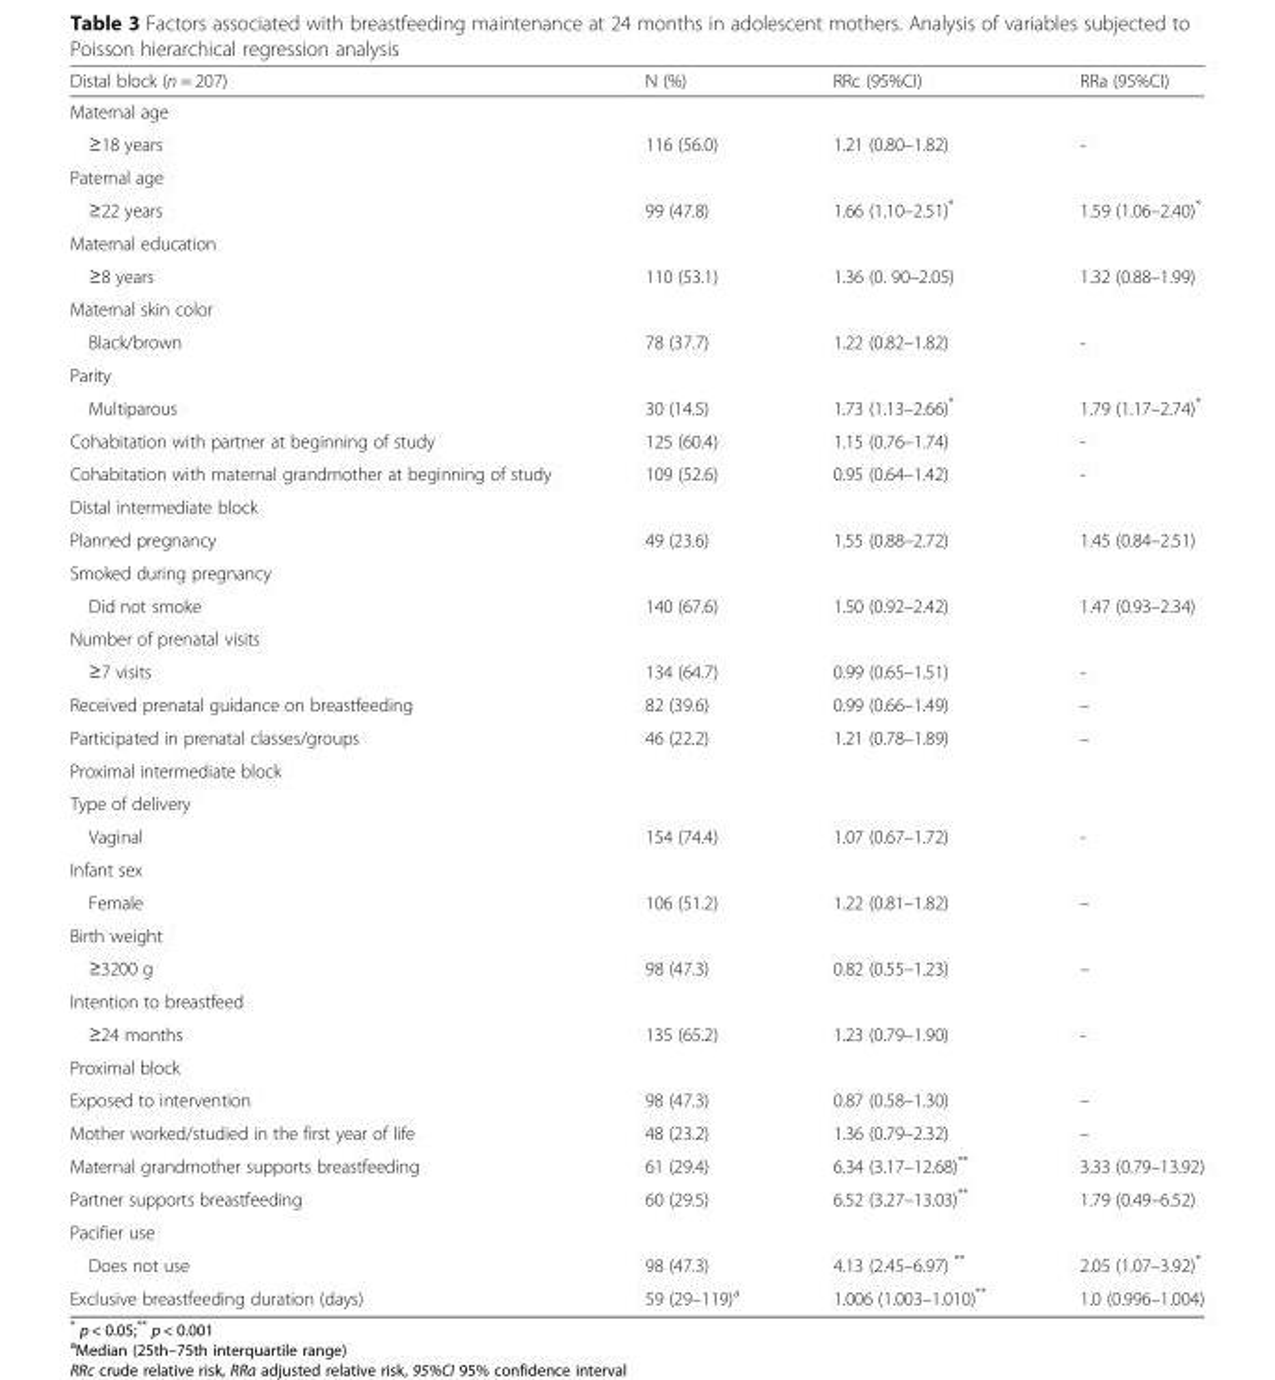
<table><thead><tr><td>Distal block (n = 207)</td><td>N (%)</td><td>RRc (95%CI)</td><td>RRa (95%CI)</td></tr></thead><tbody><tr><td colspan="4">Maternal age</td></tr><tr><td>≥18 years</td><td>116 (56.0)</td><td>1.21 (0.80–1.82)</td><td>-</td></tr><tr><td colspan="4">Paternal age</td></tr><tr><td>≥22 years</td><td>99 (47.8)</td><td>1.66 (1.10–2.51)*</td><td>1.59 (1.06–2.40)*</td></tr><tr><td colspan="4">Maternal education</td></tr><tr><td>≥8 years</td><td>110 (53.1)</td><td>1.36 (0. 90–2.05)</td><td>1.32 (0.88–1.99)</td></tr><tr><td colspan="4">Maternal skin color</td></tr><tr><td>Black/brown</td><td>78 (37.7)</td><td>1.22 (0.82–1.82)</td><td>-</td></tr><tr><td colspan="4">Parity</td></tr><tr><td>Multiparous</td><td>30 (14.5)</td><td>1.73 (1.13–2.66)*</td><td>1.79 (1.17–2.74)*</td></tr><tr><td>Cohabitation with partner at beginning of study</td><td>125 (60.4)</td><td>1.15 (0.76–1.74)</td><td>-</td></tr><tr><td>Cohabitation with maternal grandmother at beginning of study</td><td>109 (52.6)</td><td>0.95 (0.64–1.42)</td><td>-</td></tr><tr><td colspan="4">Distal intermediate block</td></tr><tr><td>Planned pregnancy</td><td>49 (23.6)</td><td>1.55 (0.88–2.72)</td><td>1.45 (0.84–2.51)</td></tr><tr><td colspan="4">Smoked during pregnancy</td></tr><tr><td>Did not smoke</td><td>140 (67.6)</td><td>1.50 (0.92–2.42)</td><td>1.47 (0.93–2.34)</td></tr><tr><td colspan="4">Number of prenatal visits</td></tr><tr><td>≥7 visits</td><td>134 (64.7)</td><td>0.99 (0.65–1.51)</td><td>-</td></tr><tr><td>Received prenatal guidance on breastfeeding</td><td>82 (39.6)</td><td>0.99 (0.66–1.49)</td><td>–</td></tr><tr><td>Participated in prenatal classes/groups</td><td>46 (22.2)</td><td>1.21 (0.78–1.89)</td><td>–</td></tr><tr><td colspan="4">Proximal intermediate block</td></tr><tr><td colspan="4">Type of delivery</td></tr><tr><td>Vaginal</td><td>154 (74.4)</td><td>1.07 (0.67–1.72)</td><td>-</td></tr><tr><td colspan="4">Infant sex</td></tr><tr><td>Female</td><td>106 (51.2)</td><td>1.22 (0.81–1.82)</td><td>–</td></tr><tr><td colspan="4">Birth weight</td></tr><tr><td>≥3200 g</td><td>98 (47.3)</td><td>0.82 (0.55–1.23)</td><td>–</td></tr><tr><td colspan="4">Intention to breastfeed</td></tr><tr><td>≥24 months</td><td>135 (65.2)</td><td>1.23 (0.79–1.90)</td><td>-</td></tr><tr><td colspan="4">Proximal block</td></tr><tr><td>Exposed to intervention</td><td>98 (47.3)</td><td>0.87 (0.58–1.30)</td><td>–</td></tr><tr><td>Mother worked/studied in the first year of life</td><td>48 (23.2)</td><td>1.36 (0.79–2.32)</td><td>–</td></tr><tr><td>Maternal grandmother supports breastfeeding</td><td>61 (29.4)</td><td>6.34 (3.17–12.68)**</td><td>3.33 (0.79–13.92)</td></tr><tr><td>Partner supports breastfeeding</td><td>60 (29.5)</td><td>6.52 (3.27–13.03)**</td><td>1.79 (0.49–6.52)</td></tr><tr><td colspan="4">Pacifier use</td></tr><tr><td>Does not use</td><td>98 (47.3)</td><td>4.13 (2.45–6.97) **</td><td>2.05 (1.07–3.92)*</td></tr><tr><td>Exclusive breastfeeding duration (days)</td><td>59 (29–119)<sup>a</sup></td><td>1.006 (1.003–1.010)**</td><td>1.0 (0.996–1.004)</td></tr></tbody></table>